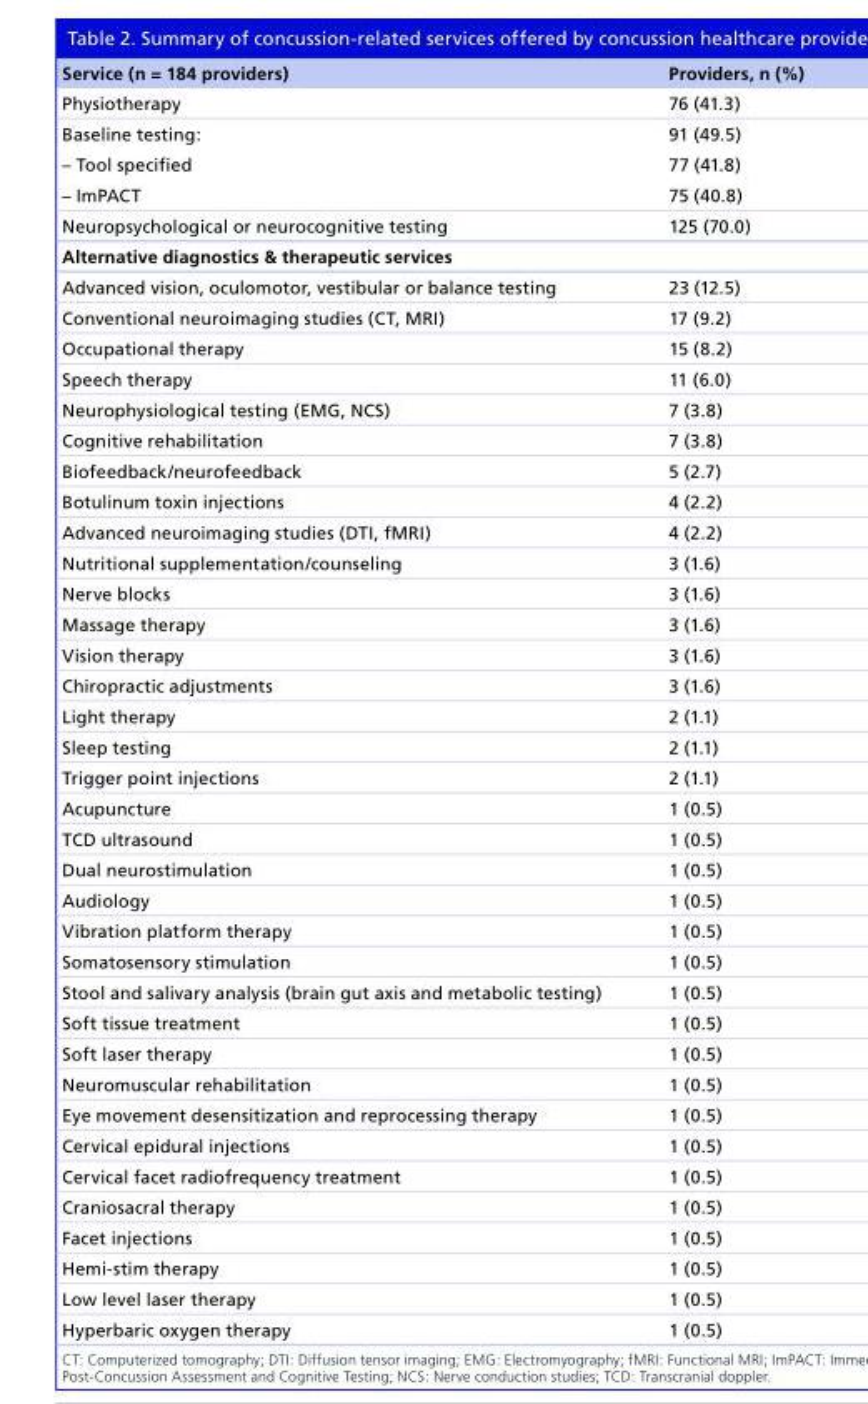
<table><thead><tr><td>Service (n = 184 providers)</td><td>Providers, n (%)</td></tr></thead><tbody><tr><td>Physiotherapy</td><td>76 (41.3)</td></tr><tr><td>Baseline testing:</td><td>91 (49.5)</td></tr><tr><td>– Tool specified</td><td>77 (41.8)</td></tr><tr><td>– ImPACT</td><td>75 (40.8)</td></tr><tr><td>Neuropsychological or neurocognitive testing</td><td>125 (70.0)</td></tr><tr><td colspan="2">Alternative diagnostics &amp; therapeutic services</td></tr><tr><td>Advanced vision, oculomotor, vestibular or balance testing</td><td>23 (12.5)</td></tr><tr><td>Conventional neuroimaging studies (CT, MRI)</td><td>17 (9.2)</td></tr><tr><td>Occupational therapy</td><td>15 (8.2)</td></tr><tr><td>Speech therapy</td><td>11 (6.0)</td></tr><tr><td>Neurophysiological testing (EMG, NCS)</td><td>7 (3.8)</td></tr><tr><td>Cognitive rehabilitation</td><td>7 (3.8)</td></tr><tr><td>Biofeedback/neurofeedback</td><td>5 (2.7)</td></tr><tr><td>Botulinum toxin injections</td><td>4 (2.2)</td></tr><tr><td>Advanced neuroimaging studies (DTI, fMRI)</td><td>4 (2.2)</td></tr><tr><td>Nutritional supplementation/counseling</td><td>3 (1.6)</td></tr><tr><td>Nerve blocks</td><td>3 (1.6)</td></tr><tr><td>Massage therapy</td><td>3 (1.6)</td></tr><tr><td>Vision therapy</td><td>3 (1.6)</td></tr><tr><td>Chiropractic adjustments</td><td>3 (1.6)</td></tr><tr><td>Light therapy</td><td>2 (1.1)</td></tr><tr><td>Sleep testing</td><td>2 (1.1)</td></tr><tr><td>Trigger point injections</td><td>2 (1.1)</td></tr><tr><td>Acupuncture</td><td>1 (0.5)</td></tr><tr><td>TCD ultrasound</td><td>1 (0.5)</td></tr><tr><td>Dual neurostimulation</td><td>1 (0.5)</td></tr><tr><td>Audiology</td><td>1 (0.5)</td></tr><tr><td>Vibration platform therapy</td><td>1 (0.5)</td></tr><tr><td>Somatosensory stimulation</td><td>1 (0.5)</td></tr><tr><td>Stool and salivary analysis (brain gut axis and metabolic testing)</td><td>1 (0.5)</td></tr><tr><td>Soft tissue treatment</td><td>1 (0.5)</td></tr><tr><td>Soft laser therapy</td><td>1 (0.5)</td></tr><tr><td>Neuromuscular rehabilitation</td><td>1 (0.5)</td></tr><tr><td>Eye movement desensitization and reprocessing therapy</td><td>1 (0.5)</td></tr><tr><td>Cervical epidural injections</td><td>1 (0.5)</td></tr><tr><td>Cervical facet radiofrequency treatment</td><td>1 (0.5)</td></tr><tr><td>Craniosacral therapy</td><td>1 (0.5)</td></tr><tr><td>Facet injections</td><td>1 (0.5)</td></tr><tr><td>Hemi-stim therapy</td><td>1 (0.5)</td></tr><tr><td>Low level laser therapy</td><td>1 (0.5)</td></tr><tr><td>Hyperbaric oxygen therapy</td><td>1 (0.5)</td></tr></tbody></table>